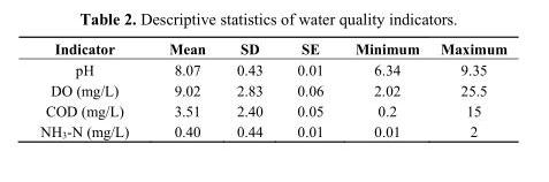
<table><thead><tr><td>Indicator</td><td>Mean</td><td>SD</td><td>SE</td><td>Minimum</td><td>Maximum</td></tr></thead><tbody><tr><td>pH</td><td>8.07</td><td>0.43</td><td>0.01</td><td>6.34</td><td>9.35</td></tr><tr><td>DO (mg/L)</td><td>9.02</td><td>2.83</td><td>0.06</td><td>2.02</td><td>25.5</td></tr><tr><td>COD (mg/L)</td><td>3.51</td><td>2.40</td><td>0.05</td><td>0.2</td><td>15</td></tr><tr><td>NH<sub>3</sub>-N (mg/L)</td><td>0.40</td><td>0.44</td><td>0.01</td><td>0.01</td><td>2</td></tr></tbody></table>